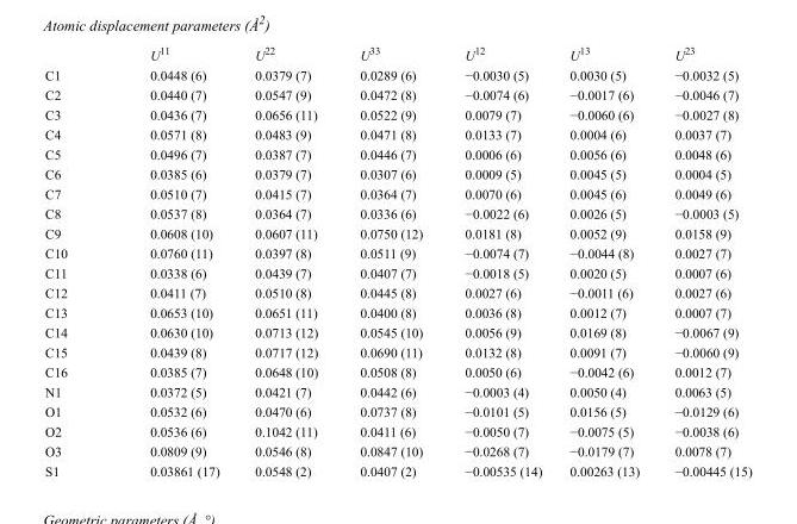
<table><thead><tr><td></td><td>U<sup>11</sup></td><td>U<sup>22</sup></td><td>U<sup>33</sup></td><td>U<sup>12</sup></td><td>U<sup>13</sup></td><td>U<sup>23</sup></td></tr></thead><tbody><tr><td>C1</td><td>0.0448 (6)</td><td>0.0379 (7)</td><td>0.0289 (6)</td><td>−0.0030 (5)</td><td>0.0030 (5)</td><td>−0.0032 (5)</td></tr><tr><td>C2</td><td>0.0440 (7)</td><td>0.0547 (9)</td><td>0.0472 (8)</td><td>−0.0074 (6)</td><td>−0.0017 (6)</td><td>−0.0046 (7)</td></tr><tr><td>C3</td><td>0.0436 (7)</td><td>0.0656 (11)</td><td>0.0522 (9)</td><td>0.0079 (7)</td><td>−0.0060 (6)</td><td>−0.0027 (8)</td></tr><tr><td>C4</td><td>0.0571 (8)</td><td>0.0483 (9)</td><td>0.0471 (8)</td><td>0.0133 (7)</td><td>0.0004 (6)</td><td>0.0037 (7)</td></tr><tr><td>C5</td><td>0.0496 (7)</td><td>0.0387 (7)</td><td>0.0446 (7)</td><td>0.0006 (6)</td><td>0.0056 (6)</td><td>0.0048 (6)</td></tr><tr><td>C6</td><td>0.0385 (6)</td><td>0.0379 (7)</td><td>0.0307 (6)</td><td>0.0009 (5)</td><td>0.0045 (5)</td><td>0.0004 (5)</td></tr><tr><td>C7</td><td>0.0510 (7)</td><td>0.0415 (7)</td><td>0.0364 (7)</td><td>0.0070 (6)</td><td>0.0045 (6)</td><td>0.0049 (6)</td></tr><tr><td>C8</td><td>0.0537 (8)</td><td>0.0364 (7)</td><td>0.0336 (6)</td><td>−0.0022 (6)</td><td>0.0026 (5)</td><td>−0.0003 (5)</td></tr><tr><td>C9</td><td>0.0608 (10)</td><td>0.0607 (11)</td><td>0.0750 (12)</td><td>0.0181 (8)</td><td>0.0052 (9)</td><td>0.0158 (9)</td></tr><tr><td>C10</td><td>0.0760 (11)</td><td>0.0397 (8)</td><td>0.0511 (9)</td><td>−0.0074 (7)</td><td>−0.0044 (8)</td><td>0.0027 (7)</td></tr><tr><td>C11</td><td>0.0338 (6)</td><td>0.0439 (7)</td><td>0.0407 (7)</td><td>−0.0018 (5)</td><td>0.0020 (5)</td><td>0.0007 (6)</td></tr><tr><td>C12</td><td>0.0411 (7)</td><td>0.0510 (8)</td><td>0.0445 (8)</td><td>0.0027 (6)</td><td>−0.0011 (6)</td><td>0.0027 (6)</td></tr><tr><td>C13</td><td>0.0653 (10)</td><td>0.0651 (11)</td><td>0.0400 (8)</td><td>0.0036 (8)</td><td>0.0012 (7)</td><td>0.0007 (7)</td></tr><tr><td>C14</td><td>0.0630 (10)</td><td>0.0713 (12)</td><td>0.0545 (10)</td><td>0.0056 (9)</td><td>0.0169 (8)</td><td>−0.0067 (9)</td></tr><tr><td>C15</td><td>0.0439 (8)</td><td>0.0717 (12)</td><td>0.0690 (11)</td><td>0.0132 (8)</td><td>0.0091 (7)</td><td>−0.0060 (9)</td></tr><tr><td>C16</td><td>0.0385 (7)</td><td>0.0648 (10)</td><td>0.0508 (8)</td><td>0.0050 (6)</td><td>−0.0042 (6)</td><td>0.0012 (7)</td></tr><tr><td>N1</td><td>0.0372 (5)</td><td>0.0421 (7)</td><td>0.0442 (6)</td><td>−0.0003 (4)</td><td>0.0050 (4)</td><td>0.0063 (5)</td></tr><tr><td>O1</td><td>0.0532 (6)</td><td>0.0470 (6)</td><td>0.0737 (8)</td><td>−0.0101 (5)</td><td>0.0156 (5)</td><td>−0.0129 (6)</td></tr><tr><td>O2</td><td>0.0536 (6)</td><td>0.1042 (11)</td><td>0.0411 (6)</td><td>−0.0050 (7)</td><td>−0.0075 (5)</td><td>−0.0038 (6)</td></tr><tr><td>O3</td><td>0.0809 (9)</td><td>0.0546 (8)</td><td>0.0847 (10)</td><td>−0.0268 (7)</td><td>−0.0179 (7)</td><td>0.0078 (7)</td></tr><tr><td>S1</td><td>0.03861 (17)</td><td>0.0548 (2)</td><td>0.0407 (2)</td><td>−0.00535 (14)</td><td>0.00263 (13)</td><td>−0.00445 (15)</td></tr></tbody></table>